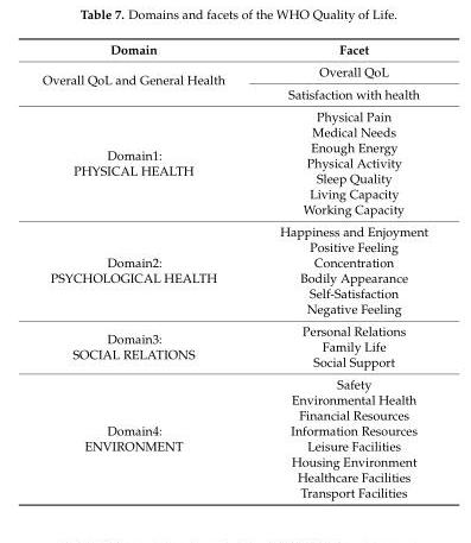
<table><thead><tr><td>Domain</td><td>Facet</td></tr></thead><tbody><tr><td rowspan="2">Overall QoL and General Health</td><td>Overall QoL</td></tr><tr><td>Satisfaction with health</td></tr><tr><td>Domain1: PHYSICAL HEALTH</td><td>Physical Pain Medical Needs Enough Energy Physical Activity Sleep Quality Living Capacity Working Capacity</td></tr><tr><td>Domain2: PSYCHOLOGICAL HEALTH</td><td>Happiness and Enjoyment Positive Feeling Concentration Bodily Appearance Self-Satisfaction Negative Feeling</td></tr><tr><td>Domain3: SOCIAL RELATIONS</td><td>Personal Relations Family Life Social Support</td></tr><tr><td>Domain4: ENVIRONMENT</td><td>Safety Environmental Health Financial Resources Information Resources Leisure Facilities Housing Environment Healthcare Facilities Transport Facilities</td></tr></tbody></table>